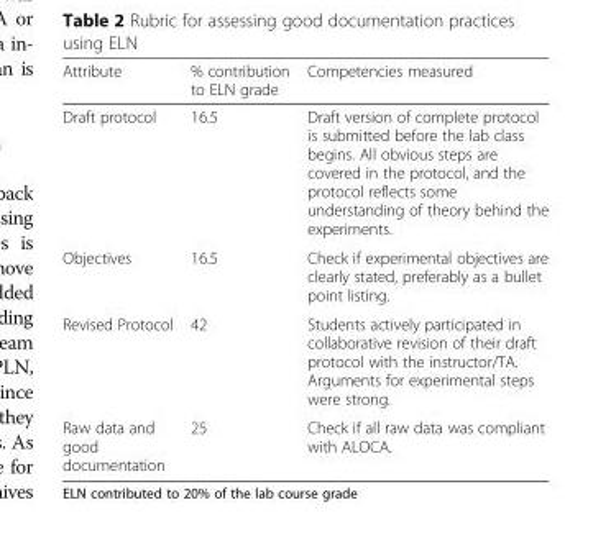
<table><thead><tr><td>Attribute</td><td>% contribution to ELN grade</td><td>Competencies measured</td></tr></thead><tbody><tr><td>Draft protocol</td><td>16.5</td><td>Draft version of complete protocol is submitted before the lab class begins. All obvious steps are covered in the protocol, and the protocol reflects some understanding of theory behind the experiments.</td></tr><tr><td>Objectives</td><td>16.5</td><td>Check if experimental objectives are clearly stated, preferably as a bullet point listing.</td></tr><tr><td>Revised Protocol</td><td>42</td><td>Students actively participated in collaborative revision of their draft protocol with the instructor/TA. Arguments for experimental steps were strong.</td></tr><tr><td>Raw data and good documentation</td><td>25</td><td>Check if all raw data was compliant with ALOCA.</td></tr></tbody></table>